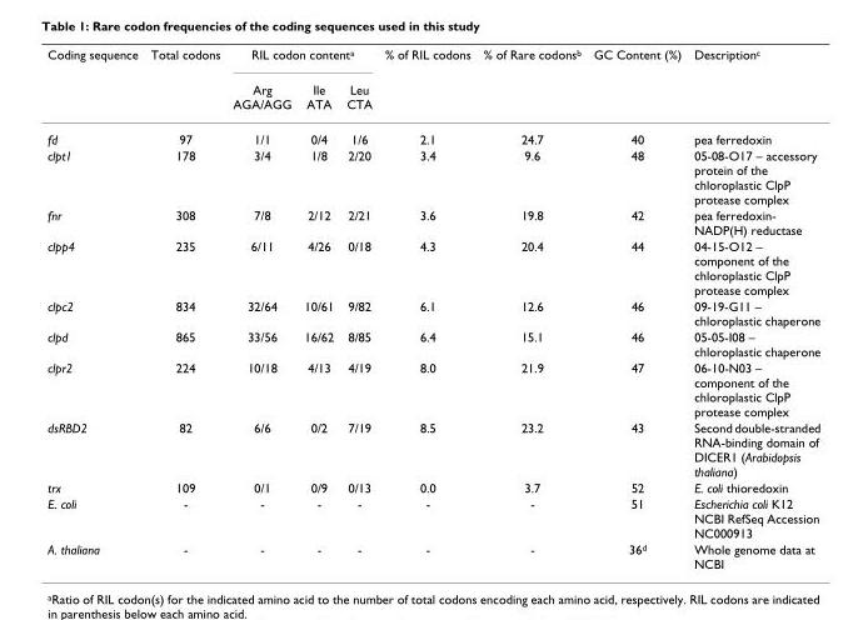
<table><thead><tr><td rowspan="2">Coding sequence</td><td rowspan="2">Total codons</td><td colspan="3">RIL codon content<sup>a</sup></td><td rowspan="2">% of RIL codons</td><td rowspan="2">% of Rare codons<sup>b</sup></td><td rowspan="2">GC Content (%)</td><td rowspan="2">Description<sup>c</sup></td></tr><tr><td>Arg AGA/AGG</td><td>Ile ATA</td><td>Leu CTA</td></tr></thead><tbody><tr><td>fd</td><td>97</td><td>1/1</td><td>0/4</td><td>1/6</td><td>2.1</td><td>24.7</td><td>40</td><td>pea ferredoxin</td></tr><tr><td>clpt1</td><td>178</td><td>3/4</td><td>1/8</td><td>2/20</td><td>3.4</td><td>9.6</td><td>48</td><td>05-08-O17 – accessory protein of the chloroplastic ClpP protease complex</td></tr><tr><td>fnr</td><td>308</td><td>7/8</td><td>2/12</td><td>2/21</td><td>3.6</td><td>19.8</td><td>42</td><td>pea ferredoxin- NADP(H) reductase</td></tr><tr><td>clpp4</td><td>235</td><td>6/11</td><td>4/26</td><td>0/18</td><td>4.3</td><td>20.4</td><td>44</td><td>04-15-O12 – component of the chloroplastic ClpP protease complex</td></tr><tr><td>clpc2</td><td>834</td><td>32/64</td><td>10/61</td><td>9/82</td><td>6.1</td><td>12.6</td><td>46</td><td>09-19-G11 – chloroplastic chaperone</td></tr><tr><td>clpd</td><td>865</td><td>33/56</td><td>16/62</td><td>8/85</td><td>6.4</td><td>15.1</td><td>46</td><td>05-05-I08 – chloroplastic chaperone</td></tr><tr><td>clpr2</td><td>224</td><td>10/18</td><td>4/13</td><td>4/19</td><td>8.0</td><td>21.9</td><td>47</td><td>06-10-N03 – component of the chloroplastic ClpP protease complex</td></tr><tr><td>dsRBD2</td><td>82</td><td>6/6</td><td>0/2</td><td>7/19</td><td>8.5</td><td>23.2</td><td>43</td><td>Second double-stranded RNA-binding domain of DICER1 (Arabidopsis thaliana)</td></tr><tr><td>trx</td><td>109</td><td>0/1</td><td>0/9</td><td>0/13</td><td>0.0</td><td>3.7</td><td>52</td><td>E. coli thioredoxin</td></tr><tr><td>E. coli</td><td>-</td><td>-</td><td>-</td><td>-</td><td>-</td><td>-</td><td>51</td><td>Escherichia coli K12 NCBI RefSeq Accession NC000913</td></tr><tr><td>A. thaliana</td><td>-</td><td>-</td><td>-</td><td>-</td><td>-</td><td>-</td><td>36<sup>d</sup></td><td>Whole genome data at NCBI</td></tr></tbody></table>